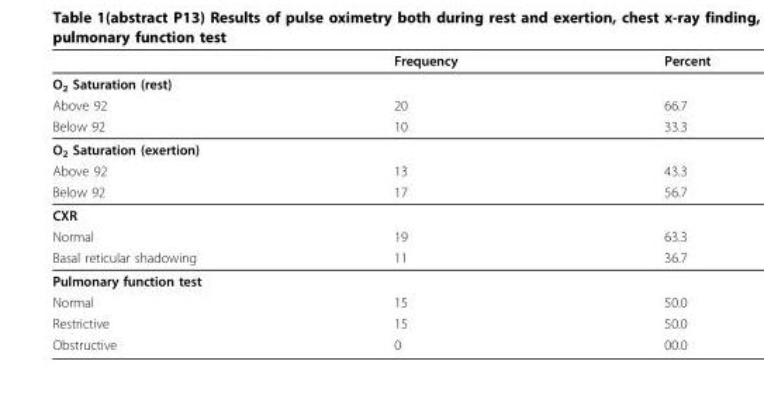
<table><thead><tr><td></td><td>Frequency</td><td>Percent</td></tr></thead><tbody><tr><td colspan="3">O<sub>2</sub> Saturation (rest)</td></tr><tr><td>Above 92</td><td>20</td><td>66.7</td></tr><tr><td>Below 92</td><td>10</td><td>33.3</td></tr><tr><td colspan="3">O<sub>2</sub> Saturation (exertion)</td></tr><tr><td>Above 92</td><td>13</td><td>43.3</td></tr><tr><td>Below 92</td><td>17</td><td>56.7</td></tr><tr><td colspan="3">CXR</td></tr><tr><td>Normal</td><td>19</td><td>63.3</td></tr><tr><td>Basal reticular shadowing</td><td>11</td><td>36.7</td></tr><tr><td colspan="3">Pulmonary function test</td></tr><tr><td>Normal</td><td>15</td><td>50.0</td></tr><tr><td>Restrictive</td><td>15</td><td>50.0</td></tr><tr><td>Obstructive</td><td>0</td><td>00.0</td></tr></tbody></table>